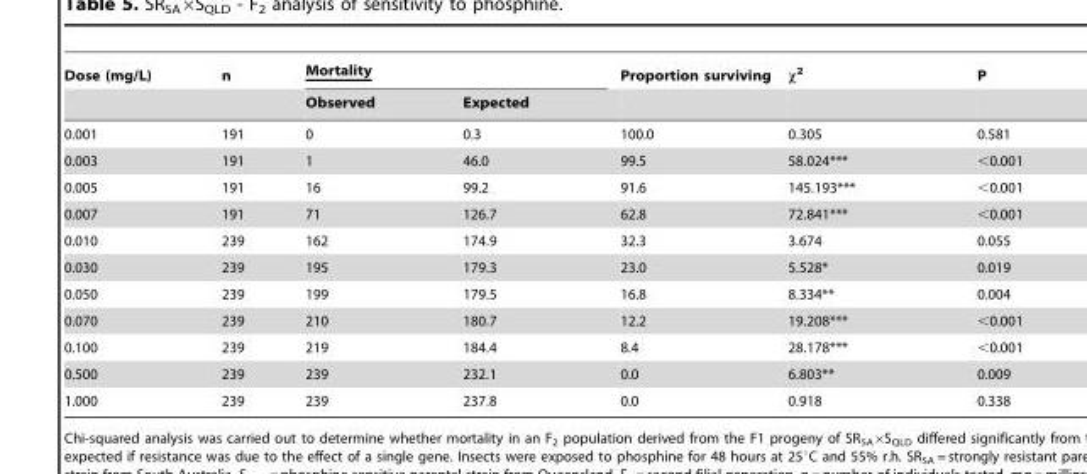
<table><thead><tr><td rowspan="2">Dose (mg/L)</td><td rowspan="2">n</td><td colspan="2">Mortality</td><td rowspan="2">Proportion surviving</td><td rowspan="2">χ<sup>2</sup></td><td rowspan="2">P</td></tr><tr><td>Observed</td><td>Expected</td></tr></thead><tbody><tr><td>0.001</td><td>191</td><td>0</td><td>0.3</td><td>100.0</td><td>0.305</td><td>0.581</td></tr><tr><td>0.003</td><td>191</td><td>1</td><td>46.0</td><td>99.5</td><td>58.024***</td><td>&lt;0.001</td></tr><tr><td>0.005</td><td>191</td><td>16</td><td>99.2</td><td>91.6</td><td>145.193***</td><td>&lt;0.001</td></tr><tr><td>0.007</td><td>191</td><td>71</td><td>126.7</td><td>62.8</td><td>72.841***</td><td>&lt;0.001</td></tr><tr><td>0.010</td><td>239</td><td>162</td><td>174.9</td><td>32.3</td><td>3.674</td><td>0.055</td></tr><tr><td>0.030</td><td>239</td><td>195</td><td>179.3</td><td>23.0</td><td>5.528*</td><td>0.019</td></tr><tr><td>0.050</td><td>239</td><td>199</td><td>179.5</td><td>16.8</td><td>8.334**</td><td>0.004</td></tr><tr><td>0.070</td><td>239</td><td>210</td><td>180.7</td><td>12.2</td><td>19.208***</td><td>&lt;0.001</td></tr><tr><td>0.100</td><td>239</td><td>219</td><td>184.4</td><td>8.4</td><td>28.178***</td><td>&lt;0.001</td></tr><tr><td>0.500</td><td>239</td><td>239</td><td>232.1</td><td>0.0</td><td>6.803**</td><td>0.009</td></tr><tr><td>1.000</td><td>239</td><td>239</td><td>237.8</td><td>0.0</td><td>0.918</td><td>0.338</td></tr></tbody></table>